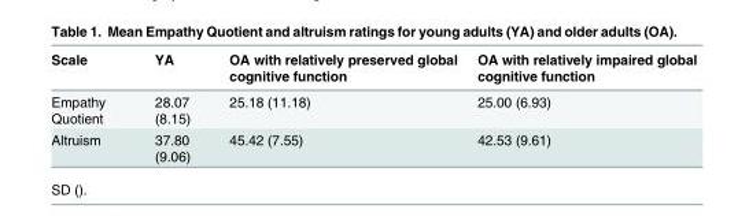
<table><thead><tr><td>Scale</td><td>YA</td><td>OA with relatively preserved global cognitive function</td><td>OA with relatively impaired global cognitive function</td></tr></thead><tbody><tr><td>Empathy Quotient</td><td>28.07 (8.15)</td><td>25.18 (11.18)</td><td>25.00 (6.93)</td></tr><tr><td>Altruism</td><td>37.80 (9.06)</td><td>45.42 (7.55)</td><td>42.53 (9.61)</td></tr></tbody></table>